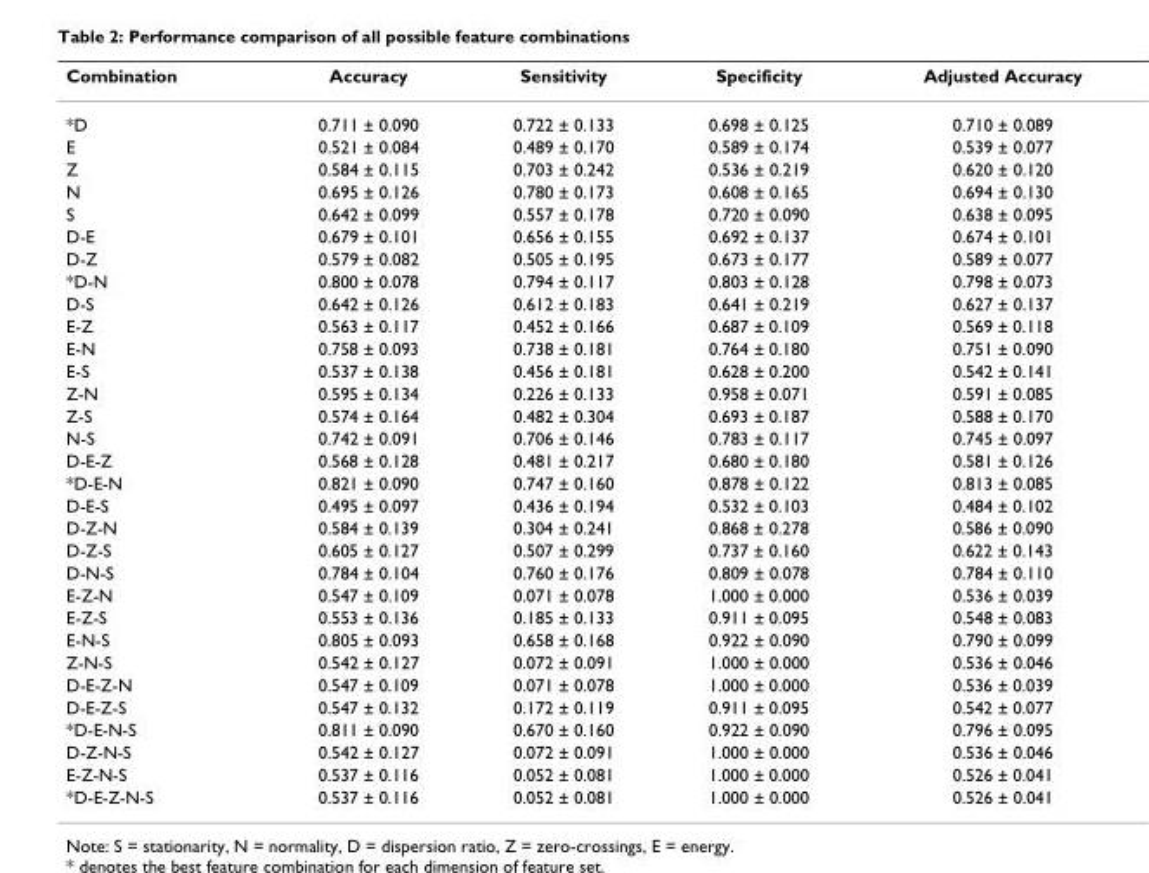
<table><thead><tr><td>Combination</td><td>Accuracy</td><td>Sensitivity</td><td>Specificity</td><td>Adjusted Accuracy</td></tr></thead><tbody><tr><td>*D</td><td>0.711 ± 0.090</td><td>0.722 ± 0.133</td><td>0.698 ± 0.125</td><td>0.710 ± 0.089</td></tr><tr><td>E</td><td>0.521 ± 0.084</td><td>0.489 ± 0.170</td><td>0.589 ± 0.174</td><td>0.539 ± 0.077</td></tr><tr><td>Z</td><td>0.584 ± 0.115</td><td>0.703 ± 0.242</td><td>0.536 ± 0.219</td><td>0.620 ± 0.120</td></tr><tr><td>N</td><td>0.695 ± 0.126</td><td>0.780 ± 0.173</td><td>0.608 ± 0.165</td><td>0.694 ± 0.130</td></tr><tr><td>S</td><td>0.642 ± 0.099</td><td>0.557 ± 0.178</td><td>0.720 ± 0.090</td><td>0.638 ± 0.095</td></tr><tr><td>D-E</td><td>0.679 ± 0.101</td><td>0.656 ± 0.155</td><td>0.692 ± 0.137</td><td>0.674 ± 0.101</td></tr><tr><td>D-Z</td><td>0.579 ± 0.082</td><td>0.505 ± 0.195</td><td>0.673 ± 0.177</td><td>0.589 ± 0.077</td></tr><tr><td>*D-N</td><td>0.800 ± 0.078</td><td>0.794 ± 0.117</td><td>0.803 ± 0.128</td><td>0.798 ± 0.073</td></tr><tr><td>D-S</td><td>0.642 ± 0.126</td><td>0.612 ± 0.183</td><td>0.641 ± 0.219</td><td>0.627 ± 0.137</td></tr><tr><td>E-Z</td><td>0.563 ± 0.117</td><td>0.452 ± 0.166</td><td>0.687 ± 0.109</td><td>0.569 ± 0.118</td></tr><tr><td>E-N</td><td>0.758 ± 0.093</td><td>0.738 ± 0.181</td><td>0.764 ± 0.180</td><td>0.751 ± 0.090</td></tr><tr><td>E-S</td><td>0.537 ± 0.138</td><td>0.456 ± 0.181</td><td>0.628 ± 0.200</td><td>0.542 ± 0.141</td></tr><tr><td>Z-N</td><td>0.595 ± 0.134</td><td>0.226 ± 0.133</td><td>0.958 ± 0.071</td><td>0.591 ± 0.085</td></tr><tr><td>Z-S</td><td>0.574 ± 0.164</td><td>0.482 ± 0.304</td><td>0.693 ± 0.187</td><td>0.588 ± 0.170</td></tr><tr><td>N-S</td><td>0.742 ± 0.091</td><td>0.706 ± 0.146</td><td>0.783 ± 0.117</td><td>0.745 ± 0.097</td></tr><tr><td>D-E-Z</td><td>0.568 ± 0.128</td><td>0.481 ± 0.217</td><td>0.680 ± 0.180</td><td>0.581 ± 0.126</td></tr><tr><td>*D-E-N</td><td>0.821 ± 0.090</td><td>0.747 ± 0.160</td><td>0.878 ± 0.122</td><td>0.813 ± 0.085</td></tr><tr><td>D-E-S</td><td>0.495 ± 0.097</td><td>0.436 ± 0.194</td><td>0.532 ± 0.103</td><td>0.484 ± 0.102</td></tr><tr><td>D-Z-N</td><td>0.584 ± 0.139</td><td>0.304 ± 0.241</td><td>0.868 ± 0.278</td><td>0.586 ± 0.090</td></tr><tr><td>D-Z-S</td><td>0.605 ± 0.127</td><td>0.507 ± 0.299</td><td>0.737 ± 0.160</td><td>0.622 ± 0.143</td></tr><tr><td>D-N-S</td><td>0.784 ± 0.104</td><td>0.760 ± 0.176</td><td>0.809 ± 0.078</td><td>0.784 ± 0.110</td></tr><tr><td>E-Z-N</td><td>0.547 ± 0.109</td><td>0.071 ± 0.078</td><td>1.000 ± 0.000</td><td>0.536 ± 0.039</td></tr><tr><td>E-Z-S</td><td>0.553 ± 0.136</td><td>0.185 ± 0.133</td><td>0.911 ± 0.095</td><td>0.548 ± 0.083</td></tr><tr><td>E-N-S</td><td>0.805 ± 0.093</td><td>0.658 ± 0.168</td><td>0.922 ± 0.090</td><td>0.790 ± 0.099</td></tr><tr><td>Z-N-S</td><td>0.542 ± 0.127</td><td>0.072 ± 0.091</td><td>1.000 ± 0.000</td><td>0.536 ± 0.046</td></tr><tr><td>D-E-Z-N</td><td>0.547 ± 0.109</td><td>0.071 ± 0.078</td><td>1.000 ± 0.000</td><td>0.536 ± 0.039</td></tr><tr><td>D-E-Z-S</td><td>0.547 ± 0.132</td><td>0.172 ± 0.119</td><td>0.911 ± 0.095</td><td>0.542 ± 0.077</td></tr><tr><td>*D-E-N-S</td><td>0.811 ± 0.090</td><td>0.670 ± 0.160</td><td>0.922 ± 0.090</td><td>0.796 ± 0.095</td></tr><tr><td>D-Z-N-S</td><td>0.542 ± 0.127</td><td>0.072 ± 0.091</td><td>1.000 ± 0.000</td><td>0.536 ± 0.046</td></tr><tr><td>E-Z-N-S</td><td>0.537 ± 0.116</td><td>0.052 ± 0.081</td><td>1.000 ± 0.000</td><td>0.526 ± 0.041</td></tr><tr><td>*D-E-Z-N-S</td><td>0.537 ± 0.116</td><td>0.052 ± 0.081</td><td>1.000 ± 0.000</td><td>0.526 ± 0.041</td></tr></tbody></table>